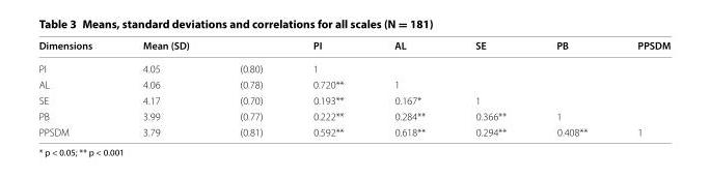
<table><thead><tr><td rowspan="2">Dimensions PI</td><td colspan="2">Mean (SD)</td><td rowspan="2">PI 1</td><td rowspan="2">AL</td><td rowspan="2">SE</td><td rowspan="2">PB</td><td rowspan="2">PPSDM</td></tr><tr><td>4.05</td><td>(0.80)</td></tr></thead><tbody><tr><td>AL</td><td>4.06</td><td>(0.78)</td><td>0.720**</td><td>1</td><td></td><td></td><td></td></tr><tr><td>SE</td><td>4.17</td><td>(0.70)</td><td>0.193**</td><td>0.167*</td><td>1</td><td></td><td></td></tr><tr><td>PB</td><td>3.99</td><td>(0.77)</td><td>0.222**</td><td>0.284**</td><td>0.366**</td><td>1</td><td></td></tr><tr><td>PPSDM</td><td>3.79</td><td>(0.81)</td><td>0.592**</td><td>0.618**</td><td>0.294**</td><td>0.408**</td><td>1</td></tr></tbody></table>